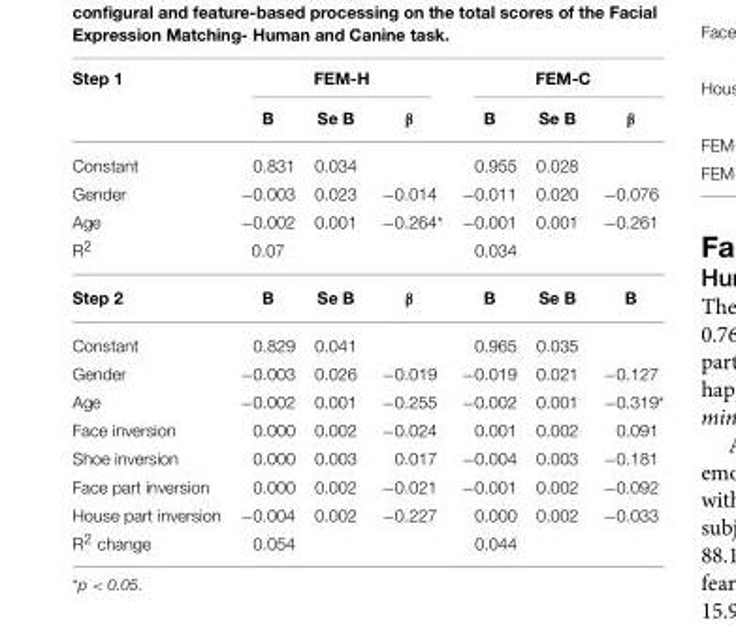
<table><thead><tr><td rowspan="2">Step 1</td><td colspan="3">FEM-H</td><td colspan="3">FEM-C</td></tr><tr><td>B</td><td>Se B</td><td>β</td><td>B</td><td>Se B</td><td>β</td></tr></thead><tbody><tr><td>Constant</td><td>0.831</td><td>0.034</td><td></td><td>0.955</td><td>0.028</td><td></td></tr><tr><td>Gender</td><td>−0.003</td><td>0.023</td><td>−0.014</td><td>−0.011</td><td>0.020</td><td>−0.076</td></tr><tr><td>Age</td><td>−0.002</td><td>0.001</td><td>−0.264*</td><td>−0.001</td><td>0.001</td><td>−0.261</td></tr><tr><td>R<sup>2</sup></td><td>0.07</td><td></td><td></td><td>0.034</td><td></td><td></td></tr><tr><td>Step 2</td><td>B</td><td>Se B</td><td>β</td><td>B</td><td>Se B</td><td>B</td></tr><tr><td>Constant</td><td>0.829</td><td>0.041</td><td></td><td>0.965</td><td>0.035</td><td></td></tr><tr><td>Gender</td><td>−0.003</td><td>0.026</td><td>−0.019</td><td>−0.019</td><td>0.021</td><td>−0.127</td></tr><tr><td>Age</td><td>−0.002</td><td>0.001</td><td>−0.255</td><td>−0.002</td><td>0.001</td><td>−0.319*</td></tr><tr><td>Face inversion</td><td>0.000</td><td>0.002</td><td>−0.024</td><td>0.001</td><td>0.002</td><td>0.091</td></tr><tr><td>Shoe inversion</td><td>0.000</td><td>0.003</td><td>0.017</td><td>−0.004</td><td>0.003</td><td>−0.181</td></tr><tr><td>Face part inversion</td><td>0.000</td><td>0.002</td><td>−0.021</td><td>−0.001</td><td>0.002</td><td>−0.092</td></tr><tr><td>House part inversion</td><td>−0.004</td><td>0.002</td><td>−0.227</td><td>0.000</td><td>0.002</td><td>−0.033</td></tr><tr><td>R<sup>2</sup> change</td><td>0.054</td><td></td><td></td><td>0.044</td><td></td><td></td></tr></tbody></table>